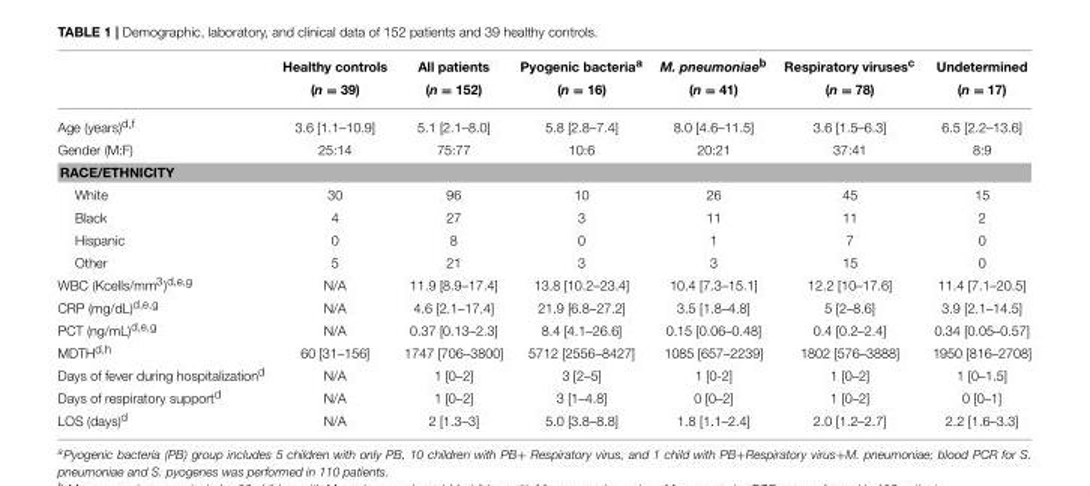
<table><thead><tr><td rowspan="2"></td><td rowspan="2">Healthy controls (n = 39)</td><td rowspan="2">All patients (n = 152)</td><td rowspan="2">Pyogenic bacteria<sup>a</sup> (n = 16)</td><td rowspan="2">M. pneumoniae<sup>b</sup> (n = 41)</td><td rowspan="2">Respiratory viruses<sup>c</sup> (n = 78)</td><td rowspan="2">Undetermined (n = 17)</td></tr><tr></tr></thead><tbody><tr><td>Age (years)<sup>d,f</sup></td><td>3.6 [1.1–10.9]</td><td>5.1 [2.1–8.0]</td><td>5.8 [2.8–7.4]</td><td>8.0 [4.6–11.5]</td><td>3.6 [1.5–6.3]</td><td>6.5 [2.2–13.6]</td></tr><tr><td>Gender (M:F)</td><td>25:14</td><td>75:77</td><td>10:6</td><td>20:21</td><td>37:41</td><td>8:9</td></tr><tr><td colspan="7">RACE/ETHNICITY</td></tr><tr><td>White</td><td>30</td><td>96</td><td>10</td><td>26</td><td>45</td><td>15</td></tr><tr><td>Black</td><td>4</td><td>27</td><td>3</td><td>11</td><td>11</td><td>2</td></tr><tr><td>Hispanic</td><td>0</td><td>8</td><td>0</td><td>1</td><td>7</td><td>0</td></tr><tr><td>Other</td><td>5</td><td>21</td><td>3</td><td>3</td><td>15</td><td>0</td></tr><tr><td>WBC (Kcells/mm<sup>3</sup>)<sup>d,e,g</sup></td><td>N/A</td><td>11.9 [8.9–17.4]</td><td>13.8 [10.2–23.4]</td><td>10.4 [7.3–15.1]</td><td>12.2 [10–17.6]</td><td>11.4 [7.1–20.5]</td></tr><tr><td>CRP (mg/dL)<sup>d,e,g</sup></td><td>N/A</td><td>4.6 [2.1–17.4]</td><td>21.9 [6.8–27.2]</td><td>3.5 [1.8–4.8]</td><td>5 [2–8.6]</td><td>3.9 [2.1–14.5]</td></tr><tr><td>PCT (ng/mL)<sup>d,e,g</sup></td><td>N/A</td><td>0.37 [0.13–2.3]</td><td>8.4 [4.1–26.6]</td><td>0.15 [0.06–0.48]</td><td>0.4 [0.2–2.4]</td><td>0.34 [0.05–0.57]</td></tr><tr><td>MDTH<sup>d,h</sup></td><td>60 [31–156]</td><td>1747 [706–3800]</td><td>5712 [2556–8427]</td><td>1085 [657–2239]</td><td>1802 [576–3888]</td><td>1950 [816–2708]</td></tr><tr><td>Days of fever during hospitalization<sup>d</sup></td><td>N/A</td><td>1 [0–2]</td><td>3 [2–5]</td><td>1 [0-2]</td><td>1 [0–2]</td><td>1 [0–1.5]</td></tr><tr><td>Days of respiratory support<sup>d</sup></td><td>N/A</td><td>1 [0–2]</td><td>3 [1–4.8]</td><td>0 [0–2]</td><td>1 [0–2]</td><td>0 [0–1]</td></tr><tr><td>LOS (days)<sup>d</sup></td><td>N/A</td><td>2 [1.3–3]</td><td>5.0 [3.8–8.8]</td><td>1.8 [1.1–2.4]</td><td>2.0 [1.2–2.7]</td><td>2.2 [1.6–3.3]</td></tr></tbody></table>